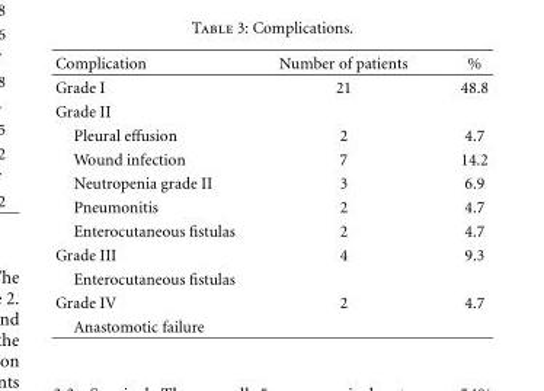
<table><thead><tr><td>Complication</td><td>Number of patients</td><td>%</td></tr></thead><tbody><tr><td>Grade I</td><td>21</td><td>48.8</td></tr><tr><td colspan="3">Grade II</td></tr><tr><td>Pleural effusion</td><td>2</td><td>4.7</td></tr><tr><td>Wound infection</td><td>7</td><td>14.2</td></tr><tr><td>Neutropenia grade II</td><td>3</td><td>6.9</td></tr><tr><td>Pneumonitis</td><td>2</td><td>4.7</td></tr><tr><td>Enterocutaneous fistulas</td><td>2</td><td>4.7</td></tr><tr><td>Grade III</td><td>4</td><td>9.3</td></tr><tr><td colspan="3">Enterocutaneous fistulas</td></tr><tr><td>Grade IV</td><td>2</td><td>4.7</td></tr><tr><td>Anastomotic failure</td><td></td><td></td></tr></tbody></table>